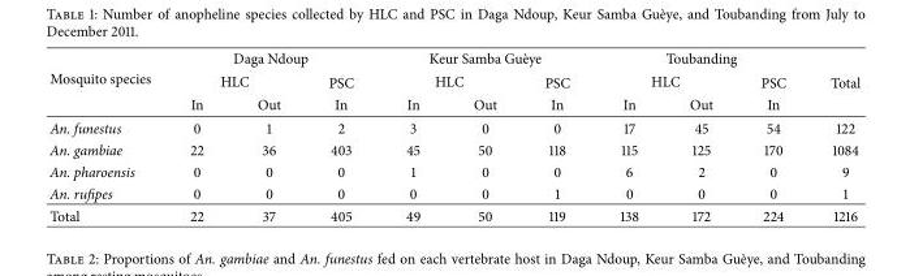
<table><thead><tr><td rowspan="3">Mosquito species</td><td colspan="3">Daga Ndoup</td><td colspan="3">Keur Samba Gu`eye</td><td colspan="3">Toubanding</td><td rowspan="3">Total</td></tr><tr><td colspan="2">HLC</td><td rowspan="2">PSC In</td><td colspan="2">HLC</td><td rowspan="2">PSC In</td><td colspan="2">HLC</td><td rowspan="2">PSC In</td></tr><tr><td>In</td><td>Out</td><td>In</td><td>Out</td><td>In</td><td>Out</td></tr></thead><tbody><tr><td>An. funestus</td><td>0</td><td>1</td><td>2</td><td>3</td><td>0</td><td>0</td><td>17</td><td>45</td><td>54</td><td>122</td></tr><tr><td>An. gambiae</td><td>22</td><td>36</td><td>403</td><td>45</td><td>50</td><td>118</td><td>115</td><td>125</td><td>170</td><td>1084</td></tr><tr><td>An. pharoensis</td><td>0</td><td>0</td><td>0</td><td>1</td><td>0</td><td>0</td><td>6</td><td>2</td><td>0</td><td>9</td></tr><tr><td>An. rufipes</td><td>0</td><td>0</td><td>0</td><td>0</td><td>0</td><td>1</td><td>0</td><td>0</td><td>0</td><td>1</td></tr><tr><td>Total</td><td>22</td><td>37</td><td>405</td><td>49</td><td>50</td><td>119</td><td>138</td><td>172</td><td>224</td><td>1216</td></tr></tbody></table>